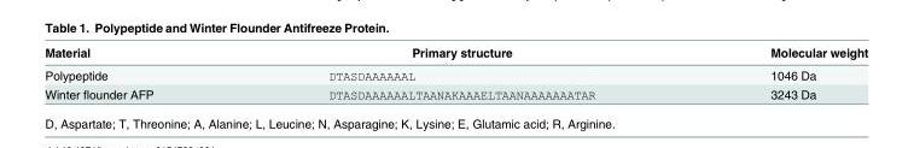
<table><thead><tr><td>Material</td><td>Primary structure</td><td>Molecular weight</td></tr></thead><tbody><tr><td>Polypeptide</td><td>DTASDAAAAAAL</td><td>1046 Da</td></tr><tr><td>Winter flounder AFP</td><td>DTASDAAAAAALTAANAKAAAELTAANAAAAAAATAR</td><td>3243 Da</td></tr></tbody></table>